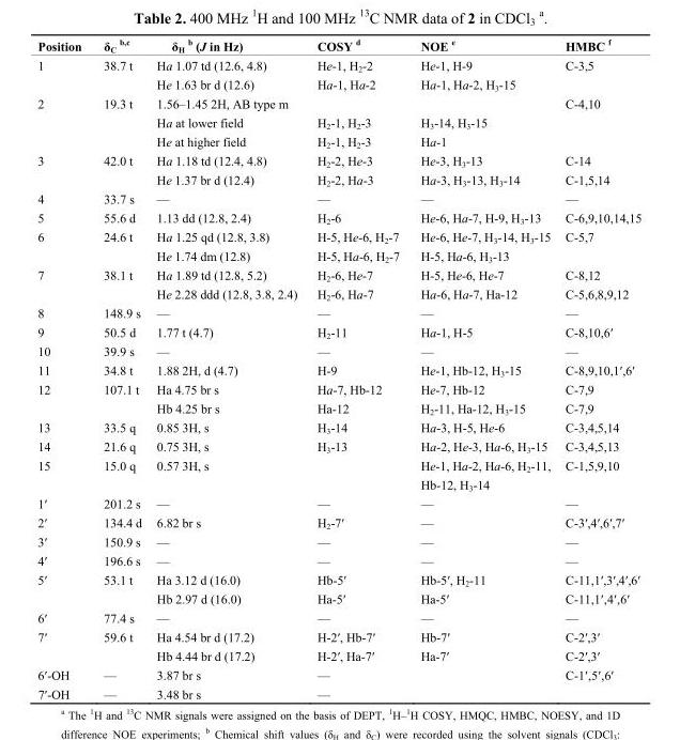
<table><thead><tr><td>Position</td><td>δ<sub>C</sub> <sup>b,c</sup></td><td>δ<sub>H</sub> <sup>b</sup> (J in Hz)</td><td>COSY <sup>d</sup></td><td>NOE <sup>e</sup></td><td>HMBC <sup>f</sup></td></tr></thead><tbody><tr><td>1</td><td>38.7 t</td><td>Ha 1.07 td (12.6, 4.8) He 1.63 br d (12.6)</td><td>He-1, H<sub>2</sub>-2 Ha-1, Ha-2</td><td>He-1, H-9 Ha-1, Ha-2, H<sub>3</sub>-15</td><td>C-3,5</td></tr><tr><td>2</td><td>19.3 t</td><td>1.56–1.45 2H, AB type m Ha at lower field He at higher field</td><td>H<sub>2</sub>-1, H<sub>2</sub>-3 H<sub>2</sub>-1, H<sub>2</sub>-3</td><td>H<sub>3</sub>-14, H<sub>3</sub>-15 Ha-1</td><td>C-4,10</td></tr><tr><td>3</td><td>42.0 t</td><td>Ha 1.18 td (12.4, 4.8) He 1.37 br d (12.4)</td><td>H<sub>2</sub>-2, He-3 H<sub>2</sub>-2, Ha-3</td><td>He-3, H<sub>3</sub>-13 Ha-3, H<sub>3</sub>-13, H<sub>3</sub>-14</td><td>C-14 C-1,5,14</td></tr><tr><td>4</td><td>33.7 s</td><td>—</td><td>—</td><td>—</td><td>—</td></tr><tr><td>5</td><td>55.6 d</td><td>1.13 dd (12.8, 2.4)</td><td>H<sub>2</sub>-6</td><td>He-6, Ha-7, H-9, H<sub>3</sub>-13</td><td>C-6,9,10,14,15</td></tr><tr><td>6</td><td>24.6 t</td><td>Ha 1.25 qd (12.8, 3.8) He 1.74 dm (12.8)</td><td>H-5, He-6, H<sub>2</sub>-7 H-5, Ha-6, H<sub>2</sub>-7</td><td>He-6, He-7, H<sub>3</sub>-14, H<sub>3</sub>-15 H-5, Ha-6, H<sub>3</sub>-13</td><td>C-5,7</td></tr><tr><td>7</td><td>38.1 t</td><td>Ha 1.89 td (12.8, 5.2) He 2.28 ddd (12.8, 3.8, 2.4)</td><td>H<sub>2</sub>-6, He-7 H<sub>2</sub>-6, Ha-7</td><td>H-5, He-6, He-7 Ha-6, Ha-7, Ha-12</td><td>C-8,12 C-5,6,8,9,12</td></tr><tr><td>8</td><td>148.9 s</td><td>—</td><td>—</td><td>—</td><td>—</td></tr><tr><td>9</td><td>50.5 d</td><td>1.77 t (4.7)</td><td>H<sub>2</sub>-11</td><td>Ha-1, H-5</td><td>C-8,10,6′</td></tr><tr><td>10</td><td>39.9 s</td><td>—</td><td>—</td><td>—</td><td>—</td></tr><tr><td>11</td><td>34.8 t</td><td>1.88 2H, d (4.7)</td><td>H-9</td><td>He-1, Hb-12, H<sub>3</sub>-15</td><td>C-8,9,10,1′,6′</td></tr><tr><td>12</td><td>107.1 t</td><td>Ha 4.75 br s Hb 4.25 br s</td><td>Ha-7, Hb-12 Ha-12</td><td>He-7, Hb-12 H<sub>2</sub>-11, Ha-12, H<sub>3</sub>-15</td><td>C-7,9 C-7,9</td></tr><tr><td>13</td><td>33.5 q</td><td>0.85 3H, s</td><td>H<sub>3</sub>-14</td><td>Ha-3, H-5, He-6</td><td>C-3,4,5,14</td></tr><tr><td>14</td><td>21.6 q</td><td>0.75 3H, s</td><td>H<sub>3</sub>-13</td><td>Ha-2, He-3, Ha-6, H<sub>3</sub>-15</td><td>C-3,4,5,13</td></tr><tr><td>15</td><td>15.0 q</td><td>0.57 3H, s</td><td></td><td>He-1, Ha-2, Ha-6, H<sub>2</sub>-11, Hb-12, H<sub>3</sub>-14</td><td>C-1,5,9,10</td></tr><tr><td>1′</td><td>201.2 s</td><td>—</td><td>—</td><td>—</td><td>—</td></tr><tr><td>2′</td><td>134.4 d</td><td>6.82 br s</td><td>H<sub>2</sub>-7′</td><td>—</td><td>C-3′,4′,6′,7′</td></tr><tr><td>3′</td><td>150.9 s</td><td>—</td><td>—</td><td>—</td><td>—</td></tr><tr><td>4′</td><td>196.6 s</td><td>—</td><td>—</td><td>—</td><td>—</td></tr><tr><td>5′</td><td>53.1 t</td><td>Ha 3.12 d (16.0) Hb 2.97 d (16.0)</td><td>Hb-5′ Ha-5′</td><td>Hb-5′, H<sub>2</sub>-11 Ha-5′</td><td>C-11,1′,3′,4′,6′ C-11,1′,4′,6′</td></tr><tr><td>6′</td><td>77.4 s</td><td>—</td><td>—</td><td>—</td><td>—</td></tr><tr><td>7′</td><td>59.6 t</td><td>Ha 4.54 br d (17.2) Hb 4.44 br d (17.2)</td><td>H-2′, Hb-7′ H-2′, Ha-7′</td><td>Hb-7′ Ha-7′</td><td>C-2′,3′ C-2′,3′</td></tr><tr><td>6′-OH</td><td>—</td><td>3.87 br s</td><td>—</td><td></td><td>C-1′,5′,6′</td></tr><tr><td>7′-OH</td><td>—</td><td>3.48 br s</td><td>—</td><td></td><td></td></tr></tbody></table>